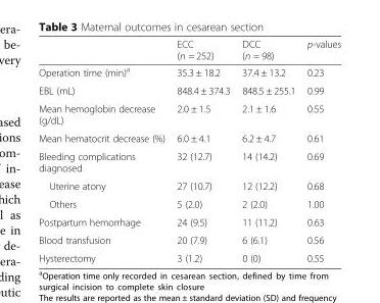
<table><thead><tr><td></td><td>ECC (n = 252)</td><td>DCC (n = 98)</td><td>p-values</td></tr></thead><tbody><tr><td>Operation time (min)<sup>a</sup></td><td>35.3 ± 18.2</td><td>37.4 ± 13.2</td><td>0.23</td></tr><tr><td>EBL (mL)</td><td>848.4 ± 374.3</td><td>848.5 ± 255.1</td><td>0.99</td></tr><tr><td>Mean hemoglobin decrease (g/dL)</td><td>2.0 ± 1.5</td><td>2.1 ± 1.6</td><td>0.55</td></tr><tr><td>Mean hematocrit decrease (%)</td><td>6.0 ± 4.1</td><td>6.2 ± 4.7</td><td>0.61</td></tr><tr><td>Bleeding complications diagnosed</td><td>32 (12.7)</td><td>14 (14.2)</td><td>0.69</td></tr><tr><td>Uterine atony</td><td>27 (10.7)</td><td>12 (12.2)</td><td>0.68</td></tr><tr><td>Others</td><td>5 (2.0)</td><td>2 (2.0)</td><td>1.00</td></tr><tr><td>Postpartum hemorrhage</td><td>24 (9.5)</td><td>11 (11.2)</td><td>0.63</td></tr><tr><td>Blood transfusion</td><td>20 (7.9)</td><td>6 (6.1)</td><td>0.56</td></tr><tr><td>Hysterectomy</td><td>3 (1.2)</td><td>0 (0)</td><td>0.55</td></tr></tbody></table>